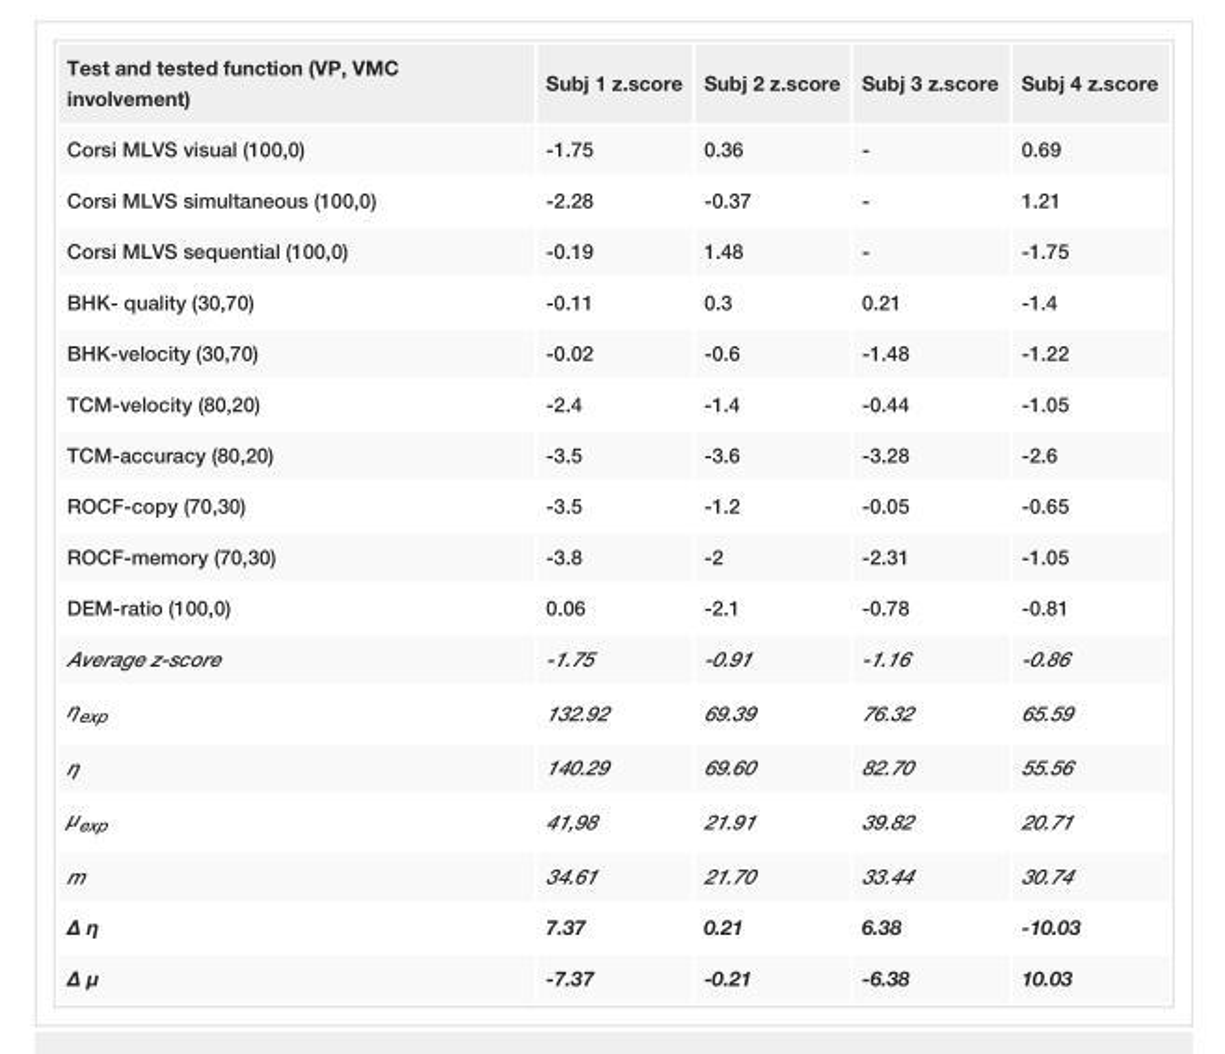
<table><tbody><tr><td>Test and tested function (VP, VMC involvement)</td><td>Subj 1 z.score</td><td>Subj 2 z.score</td><td>Subj 3 z.score</td><td>Subj 4 z.score</td></tr><tr><td>Corsi MLVS visual (100,0)</td><td>-1.75</td><td>0.36</td><td>-</td><td>0.69</td></tr><tr><td>Corsi MLVS simultaneous (100,0)</td><td>-2.28</td><td>-0.37</td><td>-</td><td>1.21</td></tr><tr><td>Corsi MLVS sequential (100,0)</td><td>-0.19</td><td>1.48</td><td>-</td><td>-1.75</td></tr><tr><td>BHK- quality (30,70)</td><td>-0.11</td><td>0.3</td><td>0.21</td><td>-1.4</td></tr><tr><td>BHK-velocity (30,70)</td><td>-0.02</td><td>-0.6</td><td>-1.48</td><td>-1.22</td></tr><tr><td>TCM-velocity (80,20)</td><td>-2.4</td><td>-1.4</td><td>-0.44</td><td>-1.05</td></tr><tr><td>TCM-accuracy (80,20)</td><td>-3.5</td><td>-3.6</td><td>-3.28</td><td>-2.6</td></tr><tr><td>ROCF-copy (70,30)</td><td>-3.5</td><td>-1.2</td><td>-0.05</td><td>-0.65</td></tr><tr><td>ROCF-memory (70,30)</td><td>-3.8</td><td>-2</td><td>-2.31</td><td>-1.05</td></tr><tr><td>DEM-ratio (100,0)</td><td>0.06</td><td>-2.1</td><td>-0.78</td><td>-0.81</td></tr><tr><td>Average z-score</td><td>-1.75</td><td>-0.91</td><td>-1.16</td><td>-0.86</td></tr><tr><td>η<sub>exp</sub></td><td>132.92</td><td>69.39</td><td>76.32</td><td>65.59</td></tr><tr><td>η</td><td>140.29</td><td>69.60</td><td>82.70</td><td>55.56</td></tr><tr><td>μ<sub>exp</sub></td><td>41,98</td><td>21.91</td><td>39.82</td><td>20.71</td></tr><tr><td>m</td><td>34.61</td><td>21.70</td><td>33.44</td><td>30.74</td></tr><tr><td>Δ η</td><td>7.37</td><td>0.21</td><td>6.38</td><td>-10.03</td></tr><tr><td>Δ μ</td><td>-7.37</td><td>-0.21</td><td>-6.38</td><td>10.03</td></tr></tbody></table>